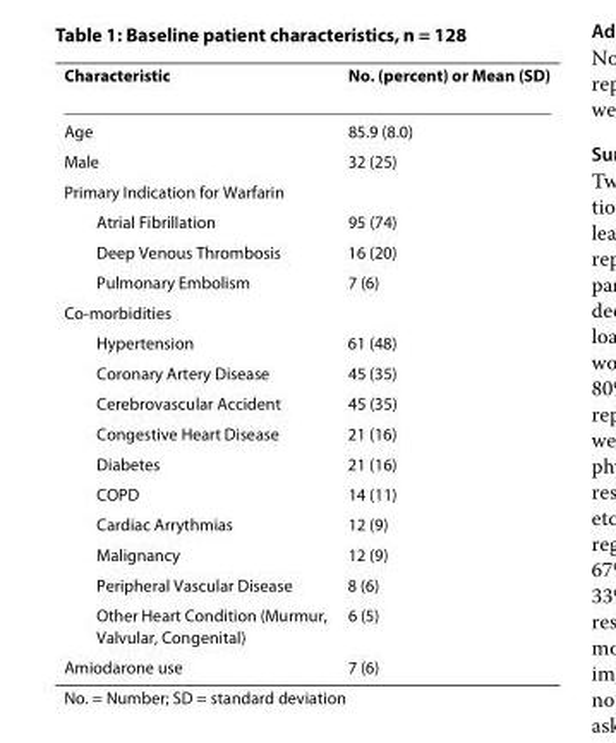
<table><thead><tr><td>Characteristic</td><td>No. (percent) or Mean (SD)</td></tr></thead><tbody><tr><td>Age</td><td>85.9 (8.0)</td></tr><tr><td>Male</td><td>32 (25)</td></tr><tr><td colspan="2">Primary Indication for Warfarin</td></tr><tr><td>Atrial Fibrillation</td><td>95 (74)</td></tr><tr><td>Deep Venous Thrombosis</td><td>16 (20)</td></tr><tr><td>Pulmonary Embolism</td><td>7 (6)</td></tr><tr><td colspan="2">Co-morbidities</td></tr><tr><td>Hypertension</td><td>61 (48)</td></tr><tr><td>Coronary Artery Disease</td><td>45 (35)</td></tr><tr><td>Cerebrovascular Accident</td><td>45 (35)</td></tr><tr><td>Congestive Heart Disease</td><td>21 (16)</td></tr><tr><td>Diabetes</td><td>21 (16)</td></tr><tr><td>COPD</td><td>14 (11)</td></tr><tr><td>Cardiac Arrythmias</td><td>12 (9)</td></tr><tr><td>Malignancy</td><td>12 (9)</td></tr><tr><td>Peripheral Vascular Disease</td><td>8 (6)</td></tr><tr><td>Other Heart Condition (Murmur, Valvular, Congenital)</td><td>6 (5)</td></tr><tr><td>Amiodarone use</td><td>7 (6)</td></tr></tbody></table>